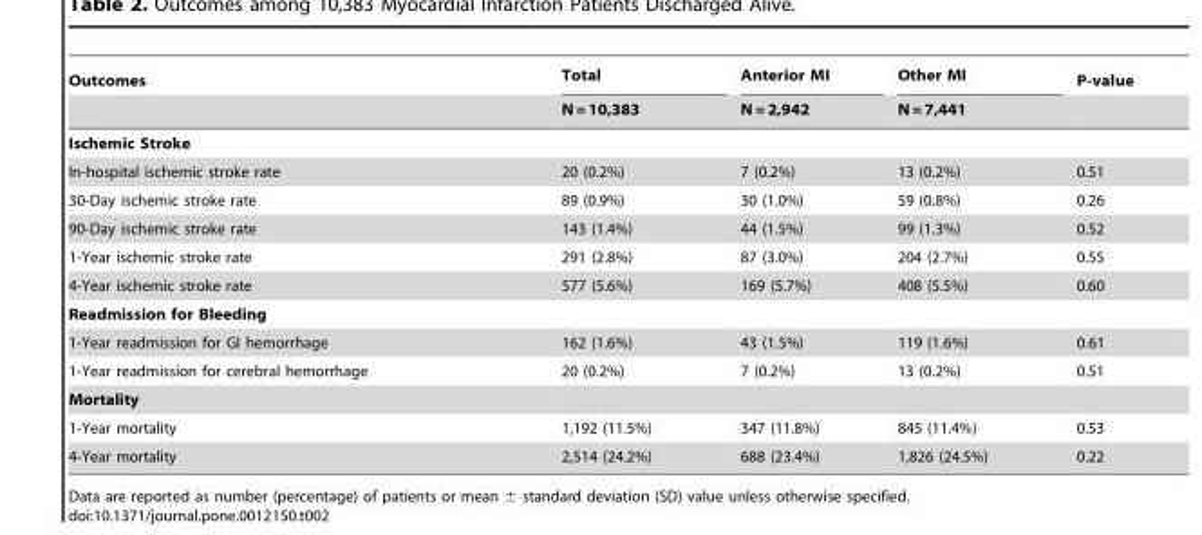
<table><thead><tr><td rowspan="2">Outcomes</td><td rowspan="2">Total N = 10,383</td><td rowspan="2">Anterior MI N = 2,942</td><td rowspan="2">Other MI N = 7,441</td><td rowspan="2">P-value</td></tr><tr></tr></thead><tbody><tr><td colspan="5">Ischemic Stroke</td></tr><tr><td>In-hospital ischemic stroke rate</td><td>20 (0.2%)</td><td>7 (0.2%)</td><td>13 (0.2%)</td><td>0.51</td></tr><tr><td>30-Day ischemic stroke rate</td><td>89 (0.9%)</td><td>30 (1.0%)</td><td>59 (0.8%)</td><td>0.26</td></tr><tr><td>90-Day ischemic stroke rate</td><td>143 (1.4%)</td><td>44 (1.5%)</td><td>99 (1.3%)</td><td>0.52</td></tr><tr><td>1-Year ischemic stroke rate</td><td>291 (2.8%)</td><td>87 (3.0%)</td><td>204 (2.7%)</td><td>0.55</td></tr><tr><td>4-Year ischemic stroke rate</td><td>577 (5.6%)</td><td>169 (5.7%)</td><td>408 (5.5%)</td><td>0.60</td></tr><tr><td colspan="5">Readmission for Bleeding</td></tr><tr><td>1-Year readmission for GI hemorrhage</td><td>162 (1.6%)</td><td>43 (1.5%)</td><td>119 (1.6%)</td><td>0.61</td></tr><tr><td>1-Year readmission for cerebral hemorrhage</td><td>20 (0.2%)</td><td>7 (0.2%)</td><td>13 (0.2%)</td><td>0.51</td></tr><tr><td colspan="5">Mortality</td></tr><tr><td>1-Year mortality</td><td>1,192 (11.5%)</td><td>347 (11.8%)</td><td>845 (11.4%)</td><td>0.53</td></tr><tr><td>4-Year mortality</td><td>2,514 (24.2%)</td><td>688 (23.4%)</td><td>1,826 (24.5%)</td><td>0.22</td></tr></tbody></table>